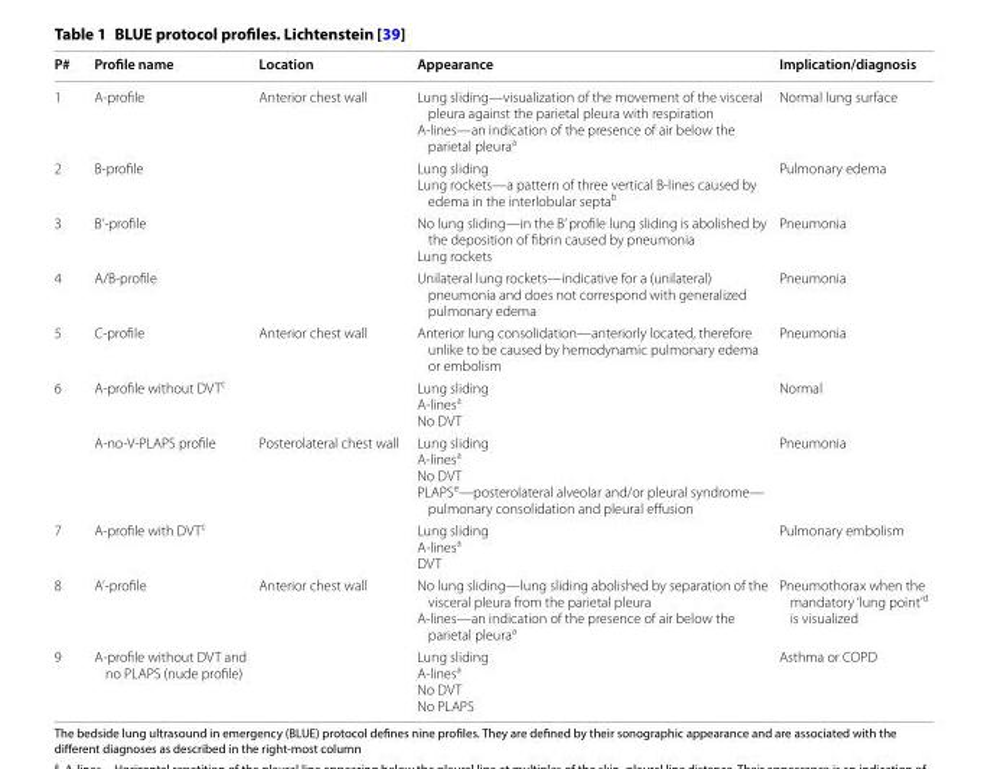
<table><thead><tr><td>P#</td><td>Profile name</td><td>Location</td><td>Appearance</td><td>Implication/diagnosis</td></tr></thead><tbody><tr><td>1</td><td>A‑profile</td><td>Anterior chest wall</td><td>Lung sliding—visualization of the movement of the visceral pleura against the parietal pleura with respiration A‑lines—an indication of the presence of air below the parietal pleura<sup>a</sup></td><td>Normal lung surface</td></tr><tr><td>2</td><td>B‑profile</td><td></td><td>Lung sliding Lung rockets—a pattern of three vertical B‑lines caused by edema in the interlobular septa<sup>b</sup></td><td>Pulmonary edema</td></tr><tr><td>3</td><td>B’‑profile</td><td></td><td>No lung sliding—in the B’ profile lung sliding is abolished by the deposition of fibrin caused by pneumonia Lung rockets</td><td>Pneumonia</td></tr><tr><td>4</td><td>A/B‑profile</td><td></td><td>Unilateral lung rockets—indicative for a (unilateral) pneumonia and does not correspond with generalized pulmonary edema</td><td>Pneumonia</td></tr><tr><td>5</td><td>C‑profile</td><td>Anterior chest wall</td><td>Anterior lung consolidation—anteriorly located, therefore unlike to be caused by hemodynamic pulmonary edema or embolism</td><td>Pneumonia</td></tr><tr><td rowspan="2">6</td><td>A‑profile without DVT<sup>c</sup></td><td></td><td>Lung sliding A‑lines<sup>a</sup> No DVT</td><td>Normal</td></tr><tr><td>A‑no‑V‑PLAPS profile</td><td>Posterolateral chest wall</td><td>Lung sliding A‑lines<sup>a</sup> No DVT PLAPS<sup>e</sup>—posterolateral alveolar and/or pleural syndrome— pulmonary consolidation and pleural effusion</td><td>Pneumonia</td></tr><tr><td>7</td><td>A‑profile with DVT<sup>c</sup></td><td></td><td>Lung sliding A‑lines<sup>a</sup> DVT</td><td>Pulmonary embolism</td></tr><tr><td>8</td><td>A’‑profile</td><td>Anterior chest wall</td><td>No lung sliding—lung sliding abolished by separation of the visceral pleura from the parietal pleura A‑lines—an indication of the presence of air below the parietal pleura<sup>a</sup></td><td>Pneumothorax when the mandatory ‘lung point’<sup>d</sup> is visualized</td></tr><tr><td>9</td><td>A‑profile without DVT and no PLAPS (nude profile)</td><td></td><td>Lung sliding A‑lines<sup>a</sup> No DVT No PLAPS</td><td>Asthma or COPD</td></tr></tbody></table>